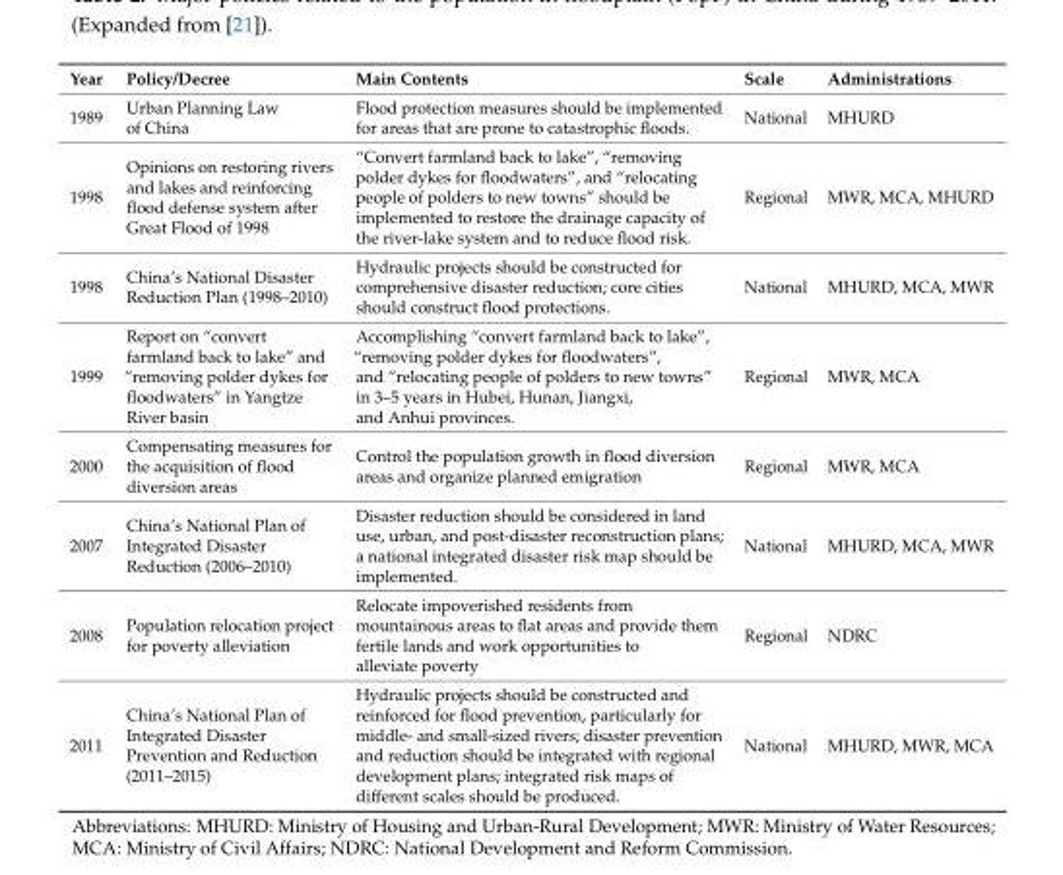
<table><thead><tr><td>Year</td><td>Policy/Decree</td><td>Main Contents</td><td>Scale</td><td>Administrations</td></tr></thead><tbody><tr><td>1989</td><td>Urban Planning Law of China</td><td>Flood protection measures should be implemented for areas that are prone to catastrophic floods.</td><td>National</td><td>MHURD</td></tr><tr><td>1998</td><td>Opinions on restoring rivers and lakes and reinforcing flood defense system after Great Flood of 1998</td><td>“Convert farmland back to lake”, “removing polder dykes for floodwaters”, and “relocating people of polders to new towns” should be implemented to restore the drainage capacity of the river-lake system and to reduce flood risk.</td><td>Regional</td><td>MWR, MCA, MHURD</td></tr><tr><td>1998</td><td>China’s National Disaster Reduction Plan (1998–2010)</td><td>Hydraulic projects should be constructed for comprehensive disaster reduction; core cities should construct flood protections.</td><td>National</td><td>MHURD, MCA, MWR</td></tr><tr><td>1999</td><td>Report on “convert farmland back to lake” and “removing polder dykes for floodwaters” in Yangtze River basin</td><td>Accomplishing “convert farmland back to lake”, “removing polder dykes for floodwaters”, and “relocating people of polders to new towns” in 3–5 years in Hubei, Hunan, Jiangxi, and Anhui provinces.</td><td>Regional</td><td>MWR, MCA</td></tr><tr><td>2000</td><td>Compensating measures for the acquisition of flood diversion areas</td><td>Control the population growth in flood diversion areas and organize planned emigration</td><td>Regional</td><td>MWR, MCA</td></tr><tr><td>2007</td><td>China’s National Plan of Integrated Disaster Reduction (2006–2010)</td><td>Disaster reduction should be considered in land use, urban, and post-disaster reconstruction plans; a national integrated disaster risk map should be implemented.</td><td>National</td><td>MHURD, MCA, MWR</td></tr><tr><td>2008</td><td>Population relocation project for poverty alleviation</td><td>Relocate impoverished residents from mountainous areas to flat areas and provide them fertile lands and work opportunities to alleviate poverty</td><td>Regional</td><td>NDRC</td></tr><tr><td>2011</td><td>China’s National Plan of Integrated Disaster Prevention and Reduction (2011–2015)</td><td>Hydraulic projects should be constructed and reinforced for flood prevention, particularly for middle- and small-sized rivers; disaster prevention and reduction should be integrated with regional development plans; integrated risk maps of different scales should be produced.</td><td>National</td><td>MHURD, MWR, MCA</td></tr></tbody></table>